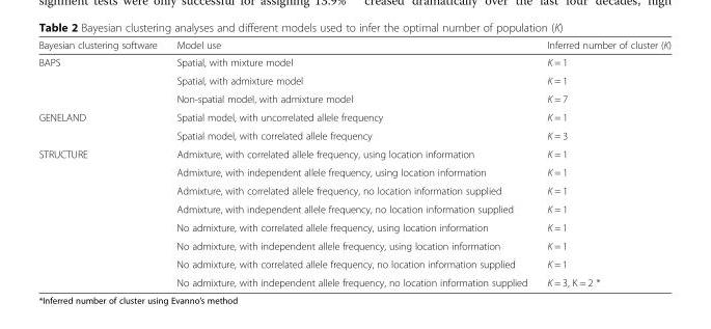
<table><thead><tr><td>Bayesian clustering software</td><td>Model use</td><td>Inferred number of cluster (K)</td></tr></thead><tbody><tr><td rowspan="3">BAPS</td><td>Spatial, with mixture model</td><td>K = 1</td></tr><tr><td>Spatial, with admixture model</td><td>K = 1</td></tr><tr><td>Non-spatial model, with admixture model</td><td>K = 7</td></tr><tr><td rowspan="2">GENELAND</td><td>Spatial model, with uncorrelated allele frequency</td><td>K = 1</td></tr><tr><td>Spatial model, with correlated allele frequency</td><td>K = 3</td></tr><tr><td rowspan="8">STRUCTURE</td><td>Admixture, with correlated allele frequency, using location information</td><td>K = 1</td></tr><tr><td>Admixture, with independent allele frequency, using location information</td><td>K = 1</td></tr><tr><td>Admixture, with correlated allele frequency, no location information supplied</td><td>K = 1</td></tr><tr><td>Admixture, with independent allele frequency, no location information supplied</td><td>K = 1</td></tr><tr><td>No admixture, with correlated allele frequency, using location information</td><td>K = 1</td></tr><tr><td>No admixture, with independent allele frequency, using location information</td><td>K = 1</td></tr><tr><td>No admixture, with correlated allele frequency, no location information supplied</td><td>K = 1</td></tr><tr><td>No admixture, with independent allele frequency, no location information supplied</td><td>K = 3, K = 2 *</td></tr></tbody></table>